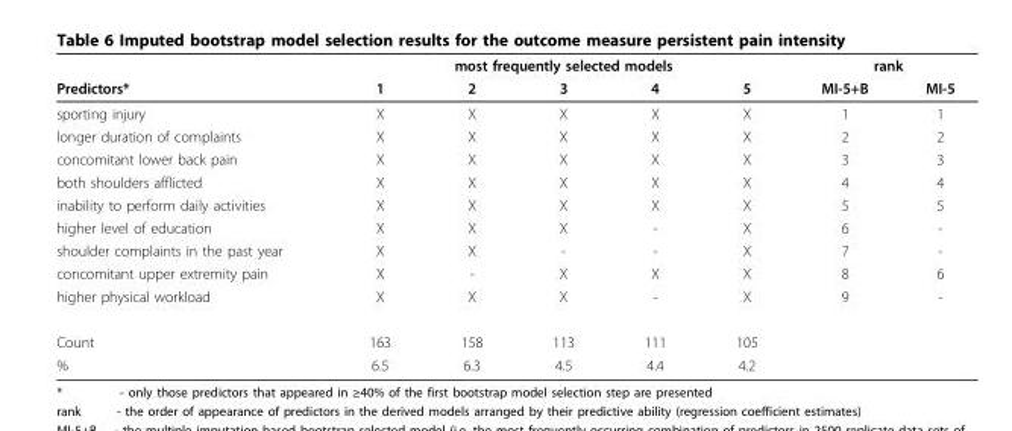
<table><thead><tr><td rowspan="2">Predictors*</td><td colspan="5">most frequently selected models</td><td colspan="2">rank</td></tr><tr><td>1</td><td>2</td><td>3</td><td>4</td><td>5</td><td>MI-5+B</td><td>MI-5</td></tr></thead><tbody><tr><td>sporting injury</td><td>X</td><td>X</td><td>X</td><td>X</td><td>X</td><td>1</td><td>1</td></tr><tr><td>longer duration of complaints</td><td>X</td><td>X</td><td>X</td><td>X</td><td>X</td><td>2</td><td>2</td></tr><tr><td>concomitant lower back pain</td><td>X</td><td>X</td><td>X</td><td>X</td><td>X</td><td>3</td><td>3</td></tr><tr><td>both shoulders afflicted</td><td>X</td><td>X</td><td>X</td><td>X</td><td>X</td><td>4</td><td>4</td></tr><tr><td>inability to perform daily activities</td><td>X</td><td>X</td><td>X</td><td>X</td><td>X</td><td>5</td><td>5</td></tr><tr><td>higher level of education</td><td>X</td><td>X</td><td>X</td><td>-</td><td>X</td><td>6</td><td>-</td></tr><tr><td>shoulder complaints in the past year</td><td>X</td><td>X</td><td>-</td><td>-</td><td>X</td><td>7</td><td>-</td></tr><tr><td>concomitant upper extremity pain</td><td>X</td><td>-</td><td>X</td><td>X</td><td>X</td><td>8</td><td>6</td></tr><tr><td>higher physical workload</td><td>X</td><td>X</td><td>X</td><td>-</td><td>X</td><td>9</td><td>-</td></tr><tr><td>Count</td><td>163</td><td>158</td><td>113</td><td>111</td><td>105</td><td></td><td></td></tr><tr><td>%</td><td>6.5</td><td>6.3</td><td>4.5</td><td>4.4</td><td>4.2</td><td></td><td></td></tr></tbody></table>